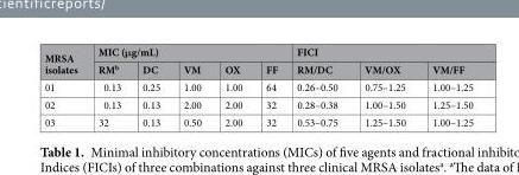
<table><thead><tr><td rowspan="2">MRSA isolates</td><td colspan="5">MIC (μg/mL)</td><td colspan="3">FICI</td></tr><tr><td>RM<sup>b</sup></td><td>DC</td><td>VM</td><td>OX</td><td>FF</td><td>RM/DC</td><td>VM/OX</td><td>VM/FF</td></tr></thead><tbody><tr><td>01</td><td>0.13</td><td>0.25</td><td>1.00</td><td>1.00</td><td>64</td><td>0.26–0.50</td><td>0.75–1.25</td><td>1.00–1.25</td></tr><tr><td>02</td><td>0.13</td><td>0.13</td><td>2.00</td><td>2.00</td><td>32</td><td>0.28–0.38</td><td>1.00–1.50</td><td>1.25–1.50</td></tr><tr><td>03</td><td>32</td><td>0.13</td><td>0.50</td><td>2.00</td><td>32</td><td>0.53–0.75</td><td>1.25–1.50</td><td>1.00–1.25</td></tr></tbody></table>